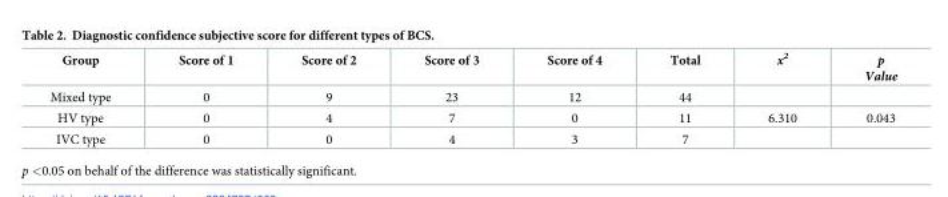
<table><thead><tr><td>Group</td><td>Score of 1</td><td>Score of 2</td><td>Score of 3</td><td>Score of 4</td><td>Total</td><td>x<sup>2</sup></td><td>p Value</td></tr></thead><tbody><tr><td>Mixed type</td><td>0</td><td>9</td><td>23</td><td>12</td><td>44</td><td></td><td></td></tr><tr><td>HV type</td><td>0</td><td>4</td><td>7</td><td>0</td><td>11</td><td>6.310</td><td>0.043</td></tr><tr><td>IVC type</td><td>0</td><td>0</td><td>4</td><td>3</td><td>7</td><td></td><td></td></tr></tbody></table>